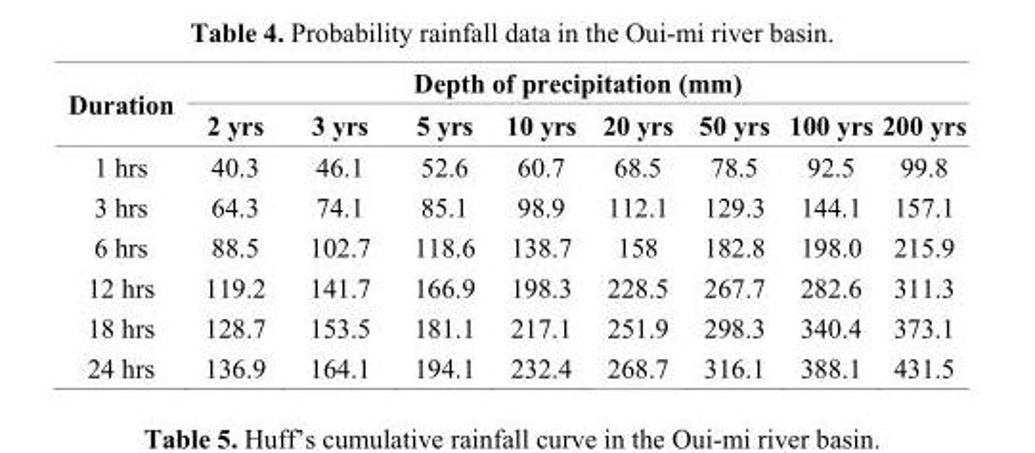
<table><thead><tr><td rowspan="2">Duration</td><td colspan="8">Depth of precipitation (mm)</td></tr><tr><td>2 yrs</td><td>3 yrs</td><td>5 yrs</td><td>10 yrs</td><td>20 yrs</td><td>50 yrs</td><td>100 yrs</td><td>200 yrs</td></tr></thead><tbody><tr><td>1 hrs</td><td>40.3</td><td>46.1</td><td>52.6</td><td>60.7</td><td>68.5</td><td>78.5</td><td>92.5</td><td>99.8</td></tr><tr><td>3 hrs</td><td>64.3</td><td>74.1</td><td>85.1</td><td>98.9</td><td>112.1</td><td>129.3</td><td>144.1</td><td>157.1</td></tr><tr><td>6 hrs</td><td>88.5</td><td>102.7</td><td>118.6</td><td>138.7</td><td>158</td><td>182.8</td><td>198.0</td><td>215.9</td></tr><tr><td>12 hrs</td><td>119.2</td><td>141.7</td><td>166.9</td><td>198.3</td><td>228.5</td><td>267.7</td><td>282.6</td><td>311.3</td></tr><tr><td>18 hrs</td><td>128.7</td><td>153.5</td><td>181.1</td><td>217.1</td><td>251.9</td><td>298.3</td><td>340.4</td><td>373.1</td></tr><tr><td>24 hrs</td><td>136.9</td><td>164.1</td><td>194.1</td><td>232.4</td><td>268.7</td><td>316.1</td><td>388.1</td><td>431.5</td></tr></tbody></table>